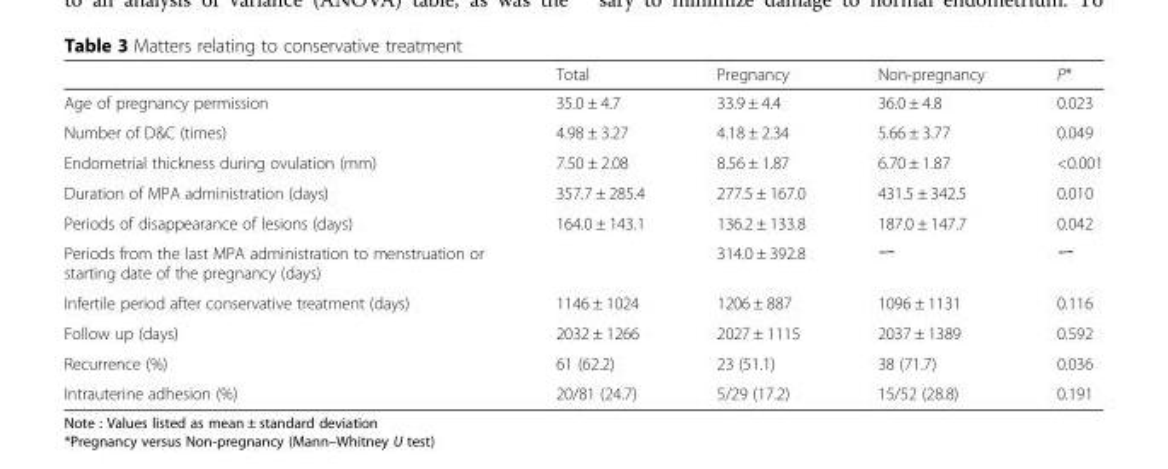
<table><thead><tr><td></td><td>Total</td><td>Pregnancy</td><td>Non-pregnancy</td><td>P*</td></tr></thead><tbody><tr><td>Age of pregnancy permission</td><td>35.0 ± 4.7</td><td>33.9 ± 4.4</td><td>36.0 ± 4.8</td><td>0.023</td></tr><tr><td>Number of D&amp;C (times)</td><td>4.98 ± 3.27</td><td>4.18 ± 2.34</td><td>5.66 ± 3.77</td><td>0.049</td></tr><tr><td>Endometrial thickness during ovulation (mm)</td><td>7.50 ± 2.08</td><td>8.56 ± 1.87</td><td>6.70 ± 1.87</td><td>&lt;0.001</td></tr><tr><td>Duration of MPA administration (days)</td><td>357.7 ± 285.4</td><td>277.5 ± 167.0</td><td>431.5 ± 342.5</td><td>0.010</td></tr><tr><td>Periods of disappearance of lesions (days)</td><td>164.0 ± 143.1</td><td>136.2 ± 133.8</td><td>187.0 ± 147.7</td><td>0.042</td></tr><tr><td>Periods from the last MPA administration to menstruation or starting date of the pregnancy (days)</td><td></td><td>314.0 ± 392.8</td><td>ー</td><td>ー</td></tr><tr><td>Infertile period after conservative treatment (days)</td><td>1146 ± 1024</td><td>1206 ± 887</td><td>1096 ± 1131</td><td>0.116</td></tr><tr><td>Follow up (days)</td><td>2032 ± 1266</td><td>2027 ± 1115</td><td>2037 ± 1389</td><td>0.592</td></tr><tr><td>Recurrence (%)</td><td>61 (62.2)</td><td>23 (51.1)</td><td>38 (71.7)</td><td>0.036</td></tr><tr><td>Intrauterine adhesion (%)</td><td>20/81 (24.7)</td><td>5/29 (17.2)</td><td>15/52 (28.8)</td><td>0.191</td></tr></tbody></table>